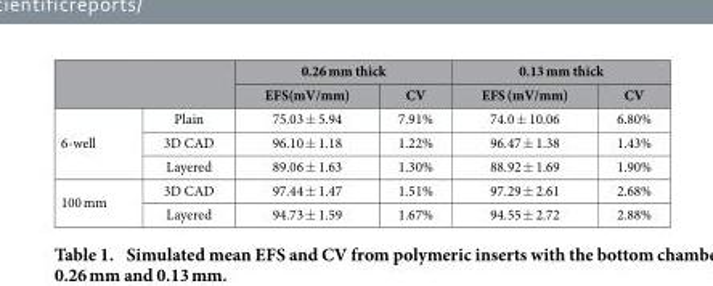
<table><thead><tr><td rowspan="2"></td><td rowspan="2"></td><td colspan="2">0.26 mm thick</td><td colspan="2">0.13 mm thick</td></tr><tr><td>EFS(mV/mm)</td><td>CV</td><td>EFS (mV/mm)</td><td>CV</td></tr></thead><tbody><tr><td rowspan="3">6-well</td><td>Plain</td><td>75.03 ± 5.94</td><td>7.91%</td><td>74.0 ± 10.06</td><td>6.80%</td></tr><tr><td>3D CAD</td><td>96.10 ± 1.18</td><td>1.22%</td><td>96.47 ± 1.38</td><td>1.43%</td></tr><tr><td>Layered</td><td>89.06 ± 1.63</td><td>1.30%</td><td>88.92 ± 1.69</td><td>1.90%</td></tr><tr><td rowspan="2">100 mm</td><td>3D CAD</td><td>97.44 ± 1.47</td><td>1.51%</td><td>97.29 ± 2.61</td><td>2.68%</td></tr><tr><td>Layered</td><td>94.73 ± 1.59</td><td>1.67%</td><td>94.55 ± 2.72</td><td>2.88%</td></tr></tbody></table>